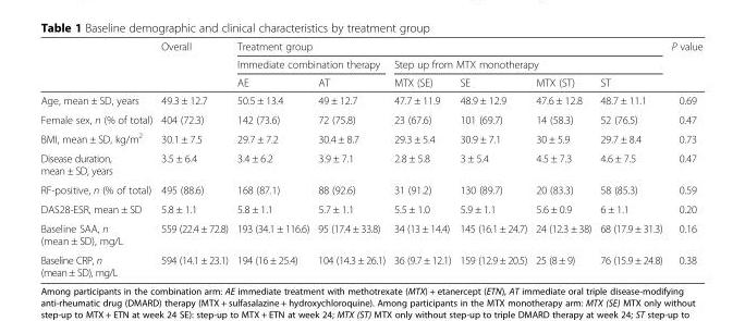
<table><thead><tr><td rowspan="3"></td><td rowspan="3">Overall</td><td colspan="6">Treatment group</td><td rowspan="3">P value</td></tr><tr><td colspan="2">Immediate combination therapy</td><td colspan="4">Step up from MTX monotherapy</td></tr><tr><td>AE</td><td>AT</td><td>MTX (SE)</td><td>SE</td><td>MTX (ST)</td><td>ST</td></tr></thead><tbody><tr><td>Age, mean ± SD, years</td><td>49.3 ± 12.7</td><td>50.5 ± 13.4</td><td>49 ± 12.7</td><td>47.7 ± 11.9</td><td>48.9 ± 12.9</td><td>47.6 ± 12.8</td><td>48.7 ± 11.1</td><td>0.69</td></tr><tr><td>Female sex, n (% of total)</td><td>404 (72.3)</td><td>142 (73.6)</td><td>72 (75.8)</td><td>23 (67.6)</td><td>101 (69.7)</td><td>14 (58.3)</td><td>52 (76.5)</td><td>0.47</td></tr><tr><td>BMI, mean ± SD, kg/m<sup>2</sup></td><td>30.1 ± 7.5</td><td>29.7 ± 7.2</td><td>30.4 ± 8.7</td><td>29.3 ± 5.4</td><td>30.9 ± 7.1</td><td>30 ± 5.9</td><td>29.7 ± 8.4</td><td>0.73</td></tr><tr><td>Disease duration, mean ± SD, years</td><td>3.5 ± 6.4</td><td>3.4 ± 6.2</td><td>3.9 ± 7.1</td><td>2.8 ± 5.8</td><td>3 ± 5.4</td><td>4.5 ± 7.3</td><td>4.6 ± 7.5</td><td>0.47</td></tr><tr><td>RF-positive, n (% of total)</td><td>495 (88.6)</td><td>168 (87.1)</td><td>88 (92.6)</td><td>31 (91.2)</td><td>130 (89.7)</td><td>20 (83.3)</td><td>58 (85.3)</td><td>0.59</td></tr><tr><td>DAS28-ESR, mean ± SD</td><td>5.8 ± 1.1</td><td>5.8 ± 1.1</td><td>5.7 ± 1.1</td><td>5.5 ± 1.0</td><td>5.9 ± 1.1</td><td>5.6 ± 0.9</td><td>6 ± 1.1</td><td>0.20</td></tr><tr><td>Baseline SAA, n (mean ± SD), mg/L</td><td>559 (22.4 ± 72.8)</td><td>193 (34.1 ± 116.6)</td><td>95 (17.4 ± 33.8)</td><td>34 (13 ± 14.4)</td><td>145 (16.1 ± 24.7)</td><td>24 (12.3 ± 38)</td><td>68 (17.9 ± 31.3)</td><td>0.16</td></tr><tr><td>Baseline CRP, n (mean ± SD), mg/L</td><td>594 (14.1 ± 23.1)</td><td>194 (16 ± 25.4)</td><td>104 (14.3 ± 26.1)</td><td>36 (9.7 ± 12.1)</td><td>159 (12.9 ± 20.5)</td><td>25 (8 ± 9)</td><td>76 (15.9 ± 24.8)</td><td>0.38</td></tr></tbody></table>